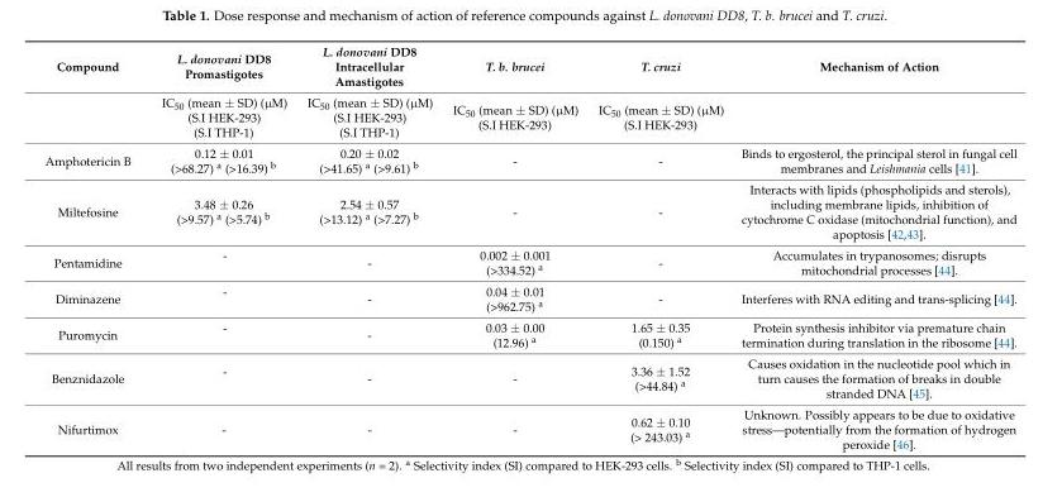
<table><thead><tr><td>Compound</td><td>L. donovani DD8 Promastigotes</td><td>L. donovani DD8 Intracellular Amastigotes</td><td>T. b. brucei</td><td>T. cruzi</td><td>Mechanism of Action</td></tr></thead><tbody><tr><td></td><td>IC<sub>50</sub> (mean ± SD) (µM) (S.I HEK-293) (S.I THP-1)</td><td>IC<sub>50</sub> (mean ± SD) (µM) (S.I HEK-293) (S.I THP-1)</td><td>IC<sub>50</sub> (mean ± SD) (µM) (S.I HEK-293)</td><td>IC<sub>50</sub> (mean ± SD) (µM) (S.I HEK-293)</td><td></td></tr><tr><td>Amphotericin B</td><td>0.12 ± 0.01 (&gt;68.27) <sup>a</sup> (&gt;16.39) <sup>b</sup></td><td>0.20 ± 0.02 (&gt;41.65) <sup>a</sup> (&gt;9.61) <sup>b</sup></td><td>-</td><td>-</td><td>Binds to ergosterol, the principal sterol in fungal cell membranes and Leishmania cells [41].</td></tr><tr><td>Miltefosine</td><td>3.48 ± 0.26 (&gt;9.57) <sup>a</sup> (&gt;5.74) <sup>b</sup></td><td>2.54 ± 0.57 (&gt;13.12) <sup>a</sup> (&gt;7.27) <sup>b</sup></td><td>-</td><td>-</td><td>Interacts with lipids (phospholipids and sterols), including membrane lipids, inhibition of cytochrome C oxidase (mitochondrial function), and apoptosis [42,43].</td></tr><tr><td>Pentamidine</td><td>-</td><td>-</td><td>0.002 ± 0.001 (&gt;334.52) <sup>a</sup></td><td>-</td><td>Accumulates in trypanosomes; disrupts mitochondrial processes [44].</td></tr><tr><td>Diminazene</td><td>-</td><td>-</td><td>0.04 ± 0.01 (&gt;962.75) <sup>a</sup></td><td>-</td><td>Interferes with RNA editing and trans-splicing [44].</td></tr><tr><td>Puromycin</td><td>-</td><td>-</td><td>0.03 ± 0.00 (12.96) <sup>a</sup></td><td>1.65 ± 0.35 (0.150) <sup>a</sup></td><td>Protein synthesis inhibitor via premature chain termination during translation in the ribosome [44].</td></tr><tr><td>Benznidazole</td><td>-</td><td>-</td><td>-</td><td>3.36 ± 1.52 (&gt;44.84) <sup>a</sup></td><td>Causes oxidation in the nucleotide pool which in turn causes the formation of breaks in double stranded DNA [45].</td></tr><tr><td>Nifurtimox</td><td>-</td><td>-</td><td>-</td><td>0.62 ± 0.10 (&gt; 243.03) <sup>a</sup></td><td>Unknown. Possibly appears to be due to oxidative stress—potentially from the formation of hydrogen peroxide [46].</td></tr></tbody></table>